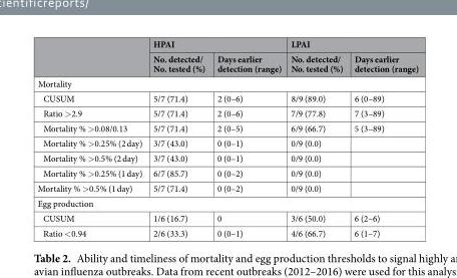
<table><thead><tr><td rowspan="2"></td><td colspan="2">HPAI</td><td colspan="2">LPAI</td></tr><tr><td>No. detected/ No. tested (%)</td><td>Days earlier detection (range)</td><td>No. detected/ No. tested (%)</td><td>Days earlier detection (range)</td></tr></thead><tbody><tr><td colspan="5">Mortality</td></tr><tr><td>CUSUM</td><td>5/7 (71.4)</td><td>2 (0–6)</td><td>8/9 (89.0)</td><td>6 (0–89)</td></tr><tr><td>Ratio &gt;2.9</td><td>5/7 (71.4)</td><td>2 (0–6)</td><td>7/9 (77.8)</td><td>7 (3–89)</td></tr><tr><td>Mortality % &gt;0.08/0.13</td><td>5/7 (71.4)</td><td>2 (0–5)</td><td>6/9 (66.7)</td><td>5 (3–89)</td></tr><tr><td>Mortality % &gt;0.25% (2 day)</td><td>3/7 (43.0)</td><td>0 (0–1)</td><td>0/9 (0.0)</td><td></td></tr><tr><td>Mortality % &gt;0.5% (2 day)</td><td>3/7 (43.0)</td><td>0 (0–1)</td><td>0/9 (0.0)</td><td></td></tr><tr><td>Mortality % &gt;0.25% (1 day)</td><td>6/7 (85.7)</td><td>0 (0–2)</td><td>0/9 (0.0)</td><td></td></tr><tr><td>Mortality % &gt;0.5% (1 day)</td><td>5/7 (71.4)</td><td>0 (0–2)</td><td>0/9 (0.0)</td><td></td></tr><tr><td colspan="5">Egg production</td></tr><tr><td>CUSUM</td><td>1/6 (16.7)</td><td>0</td><td>3/6 (50.0)</td><td>6 (2–6)</td></tr><tr><td>Ratio &lt;0.94</td><td>2/6 (33.3)</td><td>0 (0–1)</td><td>4/6 (66.7)</td><td>6 (1–7)</td></tr></tbody></table>